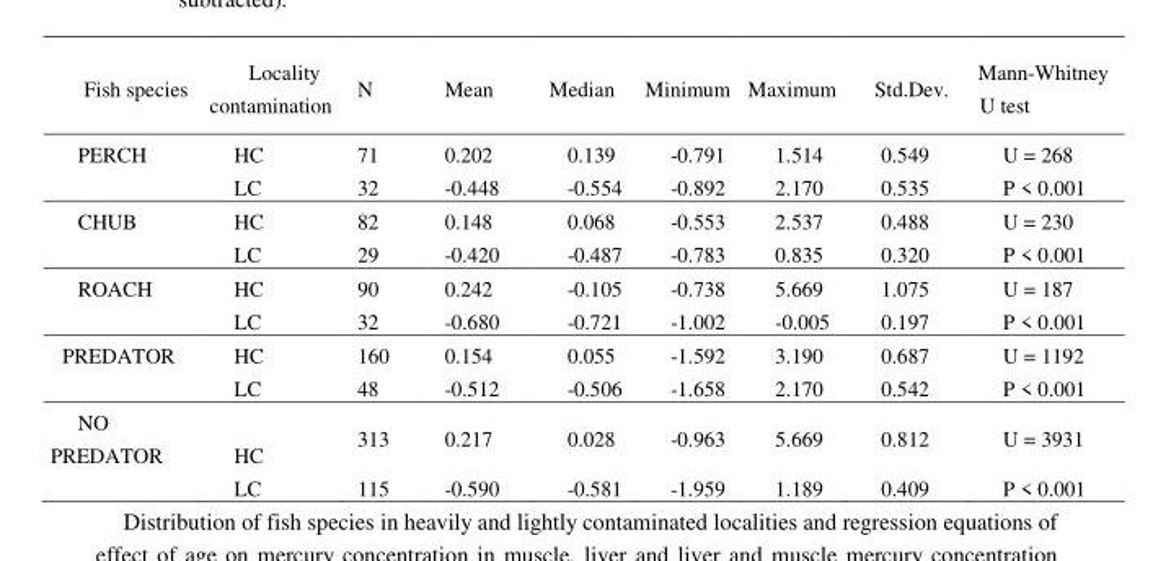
<table><thead><tr><td>Fish species</td><td>Locality contamination</td><td>N</td><td>Mean</td><td>Median</td><td>Minimum</td><td>Maximum</td><td>Std.Dev.</td><td>Mann-Whitney U test</td></tr></thead><tbody><tr><td rowspan="2">PERCH</td><td>HC</td><td>71</td><td>0.202</td><td>0.139</td><td>-0.791</td><td>1.514</td><td>0.549</td><td>U = 268</td></tr><tr><td>LC</td><td>32</td><td>-0.448</td><td>-0.554</td><td>-0.892</td><td>2.170</td><td>0.535</td><td>P &lt; 0.001</td></tr><tr><td rowspan="2">CHUB</td><td>HC</td><td>82</td><td>0.148</td><td>0.068</td><td>-0.553</td><td>2.537</td><td>0.488</td><td>U = 230</td></tr><tr><td>LC</td><td>29</td><td>-0.420</td><td>-0.487</td><td>-0.783</td><td>0.835</td><td>0.320</td><td>P &lt; 0.001</td></tr><tr><td rowspan="2">ROACH</td><td>HC</td><td>90</td><td>0.242</td><td>-0.105</td><td>-0.738</td><td>5.669</td><td>1.075</td><td>U = 187</td></tr><tr><td>LC</td><td>32</td><td>-0.680</td><td>-0.721</td><td>-1.002</td><td>-0.005</td><td>0.197</td><td>P &lt; 0.001</td></tr><tr><td rowspan="2">PREDATOR</td><td>HC</td><td>160</td><td>0.154</td><td>0.055</td><td>-1.592</td><td>3.190</td><td>0.687</td><td>U = 1192</td></tr><tr><td>LC</td><td>48</td><td>-0.512</td><td>-0.506</td><td>-1.658</td><td>2.170</td><td>0.542</td><td>P &lt; 0.001</td></tr><tr><td rowspan="2">NO PREDATOR</td><td>HC</td><td>313</td><td>0.217</td><td>0.028</td><td>-0.963</td><td>5.669</td><td>0.812</td><td>U = 3931</td></tr><tr><td>LC</td><td>115</td><td>-0.590</td><td>-0.581</td><td>-1.959</td><td>1.189</td><td>0.409</td><td>P &lt; 0.001</td></tr></tbody></table>